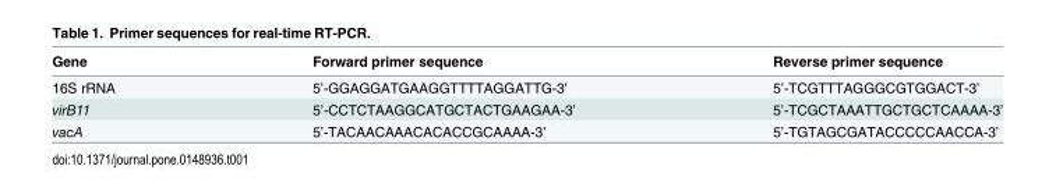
<table><thead><tr><td>Gene</td><td>Forward primer sequence</td><td>Reverse primer sequence</td></tr></thead><tbody><tr><td>16S rRNA</td><td>5’-GGAGGATGAAGGTTTTAGGATTG-3’</td><td>5’-TCGTTTAGGGCGTGGACT-3’</td></tr><tr><td>virB11</td><td>5’-CCTCTAAGGCATGCTACTGAAGAA-3’</td><td>5’-TCGCTAAATTGCTGCTCAAAA-3’</td></tr><tr><td>vacA</td><td>5’-TACAACAAACACACCGCAAAA-3’</td><td>5’-TGTAGCGATACCCCCAACCA-3’</td></tr></tbody></table>